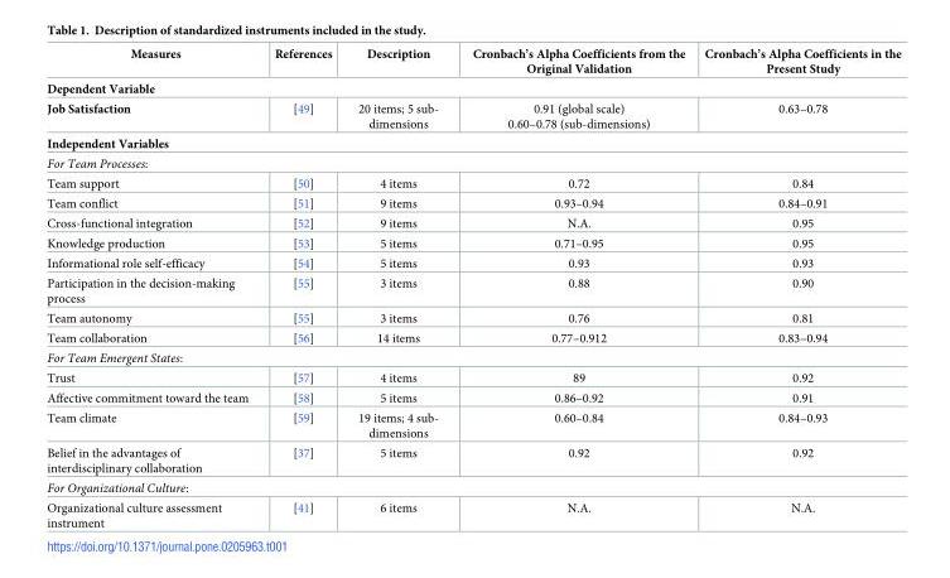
<table><thead><tr><td>Measures</td><td>References</td><td>Description</td><td>Cronbach’s Alpha Coefficients from the Original Validation</td><td>Cronbach’s Alpha Coefficients in the Present Study</td></tr></thead><tbody><tr><td colspan="5">Dependent Variable</td></tr><tr><td>Job Satisfaction</td><td>[49]</td><td>20 items; 5 sub- dimensions</td><td>0.91 (global scale) 0.60–0.78 (sub-dimensions)</td><td>0.63–0.78</td></tr><tr><td colspan="5">Independent Variables</td></tr><tr><td colspan="5">For Team Processes:</td></tr><tr><td>Team support</td><td>[50]</td><td>4 items</td><td>0.72</td><td>0.84</td></tr><tr><td>Team conflict</td><td>[51]</td><td>9 items</td><td>0.93–0.94</td><td>0.84–0.91</td></tr><tr><td>Cross-functional integration</td><td>[52]</td><td>9 items</td><td>N.A.</td><td>0.95</td></tr><tr><td>Knowledge production</td><td>[53]</td><td>5 items</td><td>0.71–0.95</td><td>0.95</td></tr><tr><td>Informational role self-efficacy</td><td>[54]</td><td>5 items</td><td>0.93</td><td>0.93</td></tr><tr><td>Participation in the decision-making process</td><td>[55]</td><td>3 items</td><td>0.88</td><td>0.90</td></tr><tr><td>Team autonomy</td><td>[55]</td><td>3 items</td><td>0.76</td><td>0.81</td></tr><tr><td>Team collaboration</td><td>[56]</td><td>14 items</td><td>0.77–0.912</td><td>0.83–0.94</td></tr><tr><td colspan="5">For Team Emergent States:</td></tr><tr><td>Trust</td><td>[57]</td><td>4 items</td><td>89</td><td>0.92</td></tr><tr><td>Affective commitment toward the team</td><td>[58]</td><td>5 items</td><td>0.86–0.92</td><td>0.91</td></tr><tr><td>Team climate</td><td>[59]</td><td>19 items; 4 sub- dimensions</td><td>0.60–0.84</td><td>0.84–0.93</td></tr><tr><td>Belief in the advantages of interdisciplinary collaboration</td><td>[37]</td><td>5 items</td><td>0.92</td><td>0.92</td></tr><tr><td colspan="5">For Organizational Culture:</td></tr><tr><td>Organizational culture assessment instrument</td><td>[41]</td><td>6 items</td><td>N.A.</td><td>N.A.</td></tr></tbody></table>